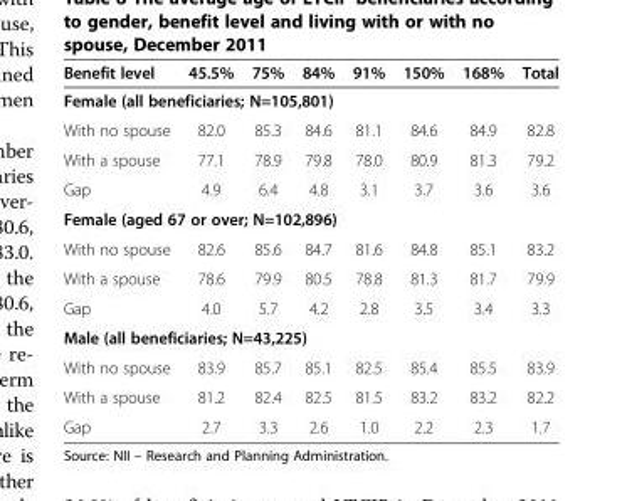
<table><thead><tr><td>Benefit level</td><td>45.5%</td><td>75%</td><td>84%</td><td>91%</td><td>150%</td><td>168%</td><td>Total</td></tr></thead><tbody><tr><td colspan="8">Female (all beneficiaries; N=105,801)</td></tr><tr><td>With no spouse</td><td>82.0</td><td>85.3</td><td>84.6</td><td>81.1</td><td>84.6</td><td>84.9</td><td>82.8</td></tr><tr><td>With a spouse</td><td>77.1</td><td>78.9</td><td>79.8</td><td>78.0</td><td>80.9</td><td>81.3</td><td>79.2</td></tr><tr><td>Gap</td><td>4.9</td><td>6.4</td><td>4.8</td><td>3.1</td><td>3.7</td><td>3.6</td><td>3.6</td></tr><tr><td colspan="8">Female (aged 67 or over; N=102,896)</td></tr><tr><td>With no spouse</td><td>82.6</td><td>85.6</td><td>84.7</td><td>81.6</td><td>84.8</td><td>85.1</td><td>83.2</td></tr><tr><td>With a spouse</td><td>78.6</td><td>79.9</td><td>80.5</td><td>78.8</td><td>81.3</td><td>81.7</td><td>79.9</td></tr><tr><td>Gap</td><td>4.0</td><td>5.7</td><td>4.2</td><td>2.8</td><td>3.5</td><td>3.4</td><td>3.3</td></tr><tr><td colspan="8">Male (all beneficiaries; N=43,225)</td></tr><tr><td>With no spouse</td><td>83.9</td><td>85.7</td><td>85.1</td><td>82.5</td><td>85.4</td><td>85.5</td><td>83.9</td></tr><tr><td>With a spouse</td><td>81.2</td><td>82.4</td><td>82.5</td><td>81.5</td><td>83.2</td><td>83.2</td><td>82.2</td></tr><tr><td>Gap</td><td>2.7</td><td>3.3</td><td>2.6</td><td>1.0</td><td>2.2</td><td>2.3</td><td>1.7</td></tr></tbody></table>